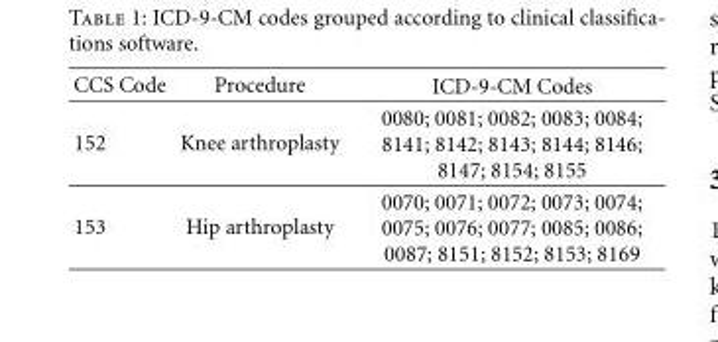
<table><thead><tr><td>CCS Code</td><td>Procedure</td><td>ICD-9-CM Codes</td></tr></thead><tbody><tr><td>152</td><td>Knee arthroplasty</td><td>0080; 0081; 0082; 0083; 0084; 8141; 8142; 8143; 8144; 8146; 8147; 8154; 8155</td></tr><tr><td>153</td><td>Hip arthroplasty</td><td>0070; 0071; 0072; 0073; 0074; 0075; 0076; 0077; 0085; 0086; 0087; 8151; 8152; 8153; 8169</td></tr></tbody></table>